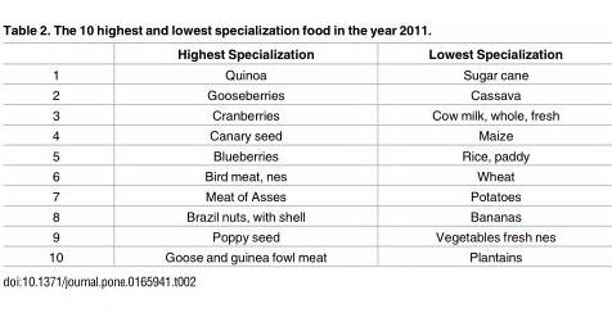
<table><thead><tr><td></td><td>Highest Specialization</td><td>Lowest Specialization</td></tr></thead><tbody><tr><td>1</td><td>Quinoa</td><td>Sugar cane</td></tr><tr><td>2</td><td>Gooseberries</td><td>Cassava</td></tr><tr><td>3</td><td>Cranberries</td><td>Cow milk, whole, fresh</td></tr><tr><td>4</td><td>Canary seed</td><td>Maize</td></tr><tr><td>5</td><td>Blueberries</td><td>Rice, paddy</td></tr><tr><td>6</td><td>Bird meat, nes</td><td>Wheat</td></tr><tr><td>7</td><td>Meat of Asses</td><td>Potatoes</td></tr><tr><td>8</td><td>Brazil nuts, with shell</td><td>Bananas</td></tr><tr><td>9</td><td>Poppy seed</td><td>Vegetables fresh nes</td></tr><tr><td>10</td><td>Goose and guinea fowl meat</td><td>Plantains</td></tr></tbody></table>